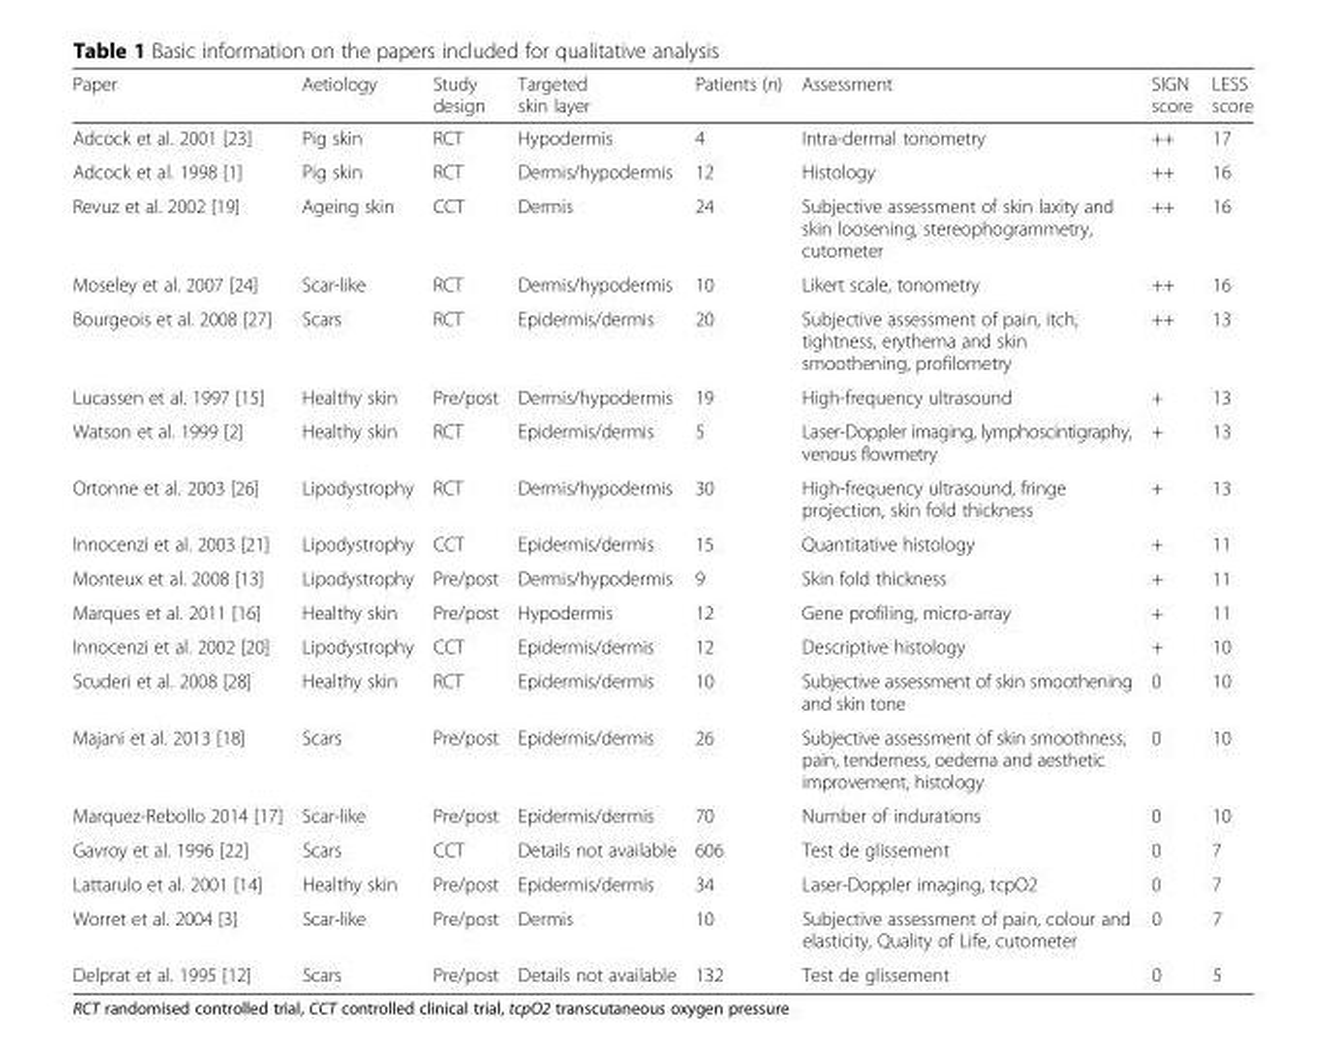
<table><thead><tr><td>Paper</td><td>Aetiology</td><td>Study design</td><td>Targeted skin layer</td><td>Patients (n)</td><td>Assessment</td><td>SIGN score</td><td>LESS score</td></tr></thead><tbody><tr><td>Adcock et al. 2001 [23]</td><td>Pig skin</td><td>RCT</td><td>Hypodermis</td><td>4</td><td>Intra-dermal tonometry</td><td>++</td><td>17</td></tr><tr><td>Adcock et al. 1998 [1]</td><td>Pig skin</td><td>RCT</td><td>Dermis/hypodermis</td><td>12</td><td>Histology</td><td>++</td><td>16</td></tr><tr><td>Revuz et al. 2002 [19]</td><td>Ageing skin</td><td>CCT</td><td>Dermis</td><td>24</td><td>Subjective assessment of skin laxity and skin loosening, stereophogrammetry, cutometer</td><td>++</td><td>16</td></tr><tr><td>Moseley et al. 2007 [24]</td><td>Scar-like</td><td>RCT</td><td>Dermis/hypodermis</td><td>10</td><td>Likert scale, tonometry</td><td>++</td><td>16</td></tr><tr><td>Bourgeois et al. 2008 [27]</td><td>Scars</td><td>RCT</td><td>Epidermis/dermis</td><td>20</td><td>Subjective assessment of pain, itch, tightness, erythema and skin smoothening, profilometry</td><td>++</td><td>13</td></tr><tr><td>Lucassen et al. 1997 [15]</td><td>Healthy skin</td><td>Pre/post</td><td>Dermis/hypodermis</td><td>19</td><td>High-frequency ultrasound</td><td>+</td><td>13</td></tr><tr><td>Watson et al. 1999 [2]</td><td>Healthy skin</td><td>RCT</td><td>Epidermis/dermis</td><td>5</td><td>Laser-Doppler imaging, lymphoscintigraphy, venous flowmetry</td><td>+</td><td>13</td></tr><tr><td>Ortonne et al. 2003 [26]</td><td>Lipodystrophy</td><td>RCT</td><td>Dermis/hypodermis</td><td>30</td><td>High-frequency ultrasound, fringe projection, skin fold thickness</td><td>+</td><td>13</td></tr><tr><td>Innocenzi et al. 2003 [21]</td><td>Lipodystrophy</td><td>CCT</td><td>Epidermis/dermis</td><td>15</td><td>Quantitative histology</td><td>+</td><td>11</td></tr><tr><td>Monteux et al. 2008 [13]</td><td>Lipodystrophy</td><td>Pre/post</td><td>Dermis/hypodermis</td><td>9</td><td>Skin fold thickness</td><td>+</td><td>11</td></tr><tr><td>Marques et al. 2011 [16]</td><td>Healthy skin</td><td>Pre/post</td><td>Hypodermis</td><td>12</td><td>Gene profiling, micro-array</td><td>+</td><td>11</td></tr><tr><td>Innocenzi et al. 2002 [20]</td><td>Lipodystrophy</td><td>CCT</td><td>Epidermis/dermis</td><td>12</td><td>Descriptive histology</td><td>+</td><td>10</td></tr><tr><td>Scuderi et al. 2008 [28]</td><td>Healthy skin</td><td>RCT</td><td>Epidermis/dermis</td><td>10</td><td>Subjective assessment of skin smoothening and skin tone</td><td>0</td><td>10</td></tr><tr><td>Majani et al. 2013 [18]</td><td>Scars</td><td>Pre/post</td><td>Epidermis/dermis</td><td>26</td><td>Subjective assessment of skin smoothness, pain, tenderness, oedema and aesthetic improvement, histology</td><td>0</td><td>10</td></tr><tr><td>Marquez-Rebollo 2014 [17]</td><td>Scar-like</td><td>Pre/post</td><td>Epidermis/dermis</td><td>70</td><td>Number of indurations</td><td>0</td><td>10</td></tr><tr><td>Gavroy et al. 1996 [22]</td><td>Scars</td><td>CCT</td><td>Details not available</td><td>606</td><td>Test de glissement</td><td>0</td><td>7</td></tr><tr><td>Lattarulo et al. 2001 [14]</td><td>Healthy skin</td><td>Pre/post</td><td>Epidermis/dermis</td><td>34</td><td>Laser-Doppler imaging, tcpO2</td><td>0</td><td>7</td></tr><tr><td>Worret et al. 2004 [3]</td><td>Scar-like</td><td>Pre/post</td><td>Dermis</td><td>10</td><td>Subjective assessment of pain, colour and elasticity, Quality of Life, cutometer</td><td>0</td><td>7</td></tr><tr><td>Delprat et al. 1995 [12]</td><td>Scars</td><td>Pre/post</td><td>Details not available</td><td>132</td><td>Test de glissement</td><td>0</td><td>5</td></tr></tbody></table>